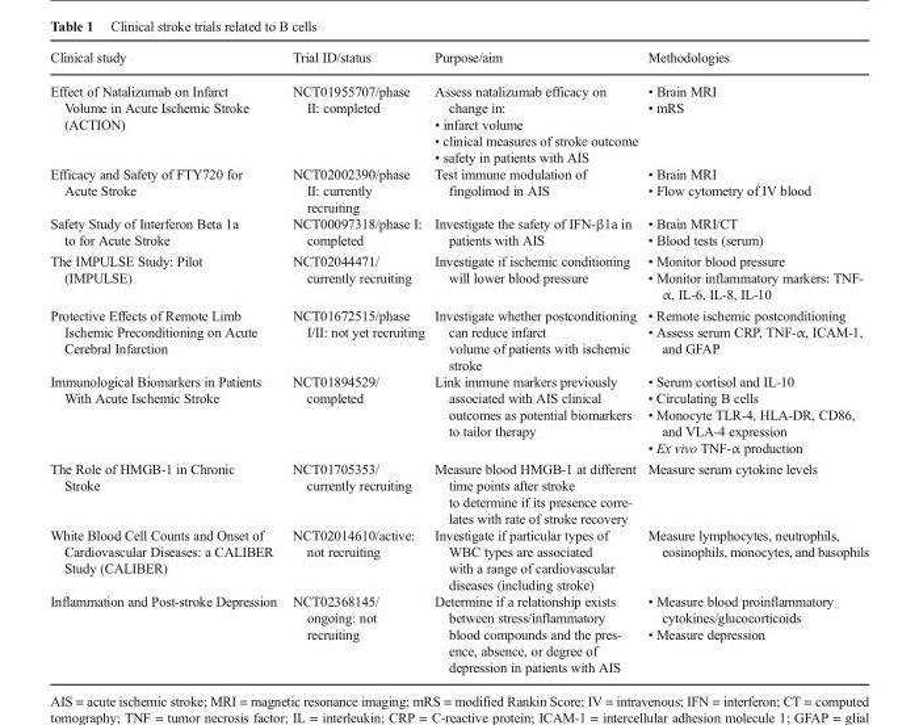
<table><thead><tr><td>Clinical study</td><td>Trial ID/status</td><td>Purpose/aim</td><td>Methodologies</td></tr></thead><tbody><tr><td>Effect of Natalizumab on Infarct Volume in Acute Ischemic Stroke (ACTION)</td><td>NCT01955707/phase II: completed</td><td>Assess natalizumab efficacy on change in: • infarct volume • clinical measures of stroke outcome • safety in patients with AIS</td><td>• Brain MRI • mRS</td></tr><tr><td>Efficacy and Safety of FTY720 for Acute Stroke</td><td>NCT02002390/phase II: currently recruiting</td><td>Test immune modulation of fingolimod in AIS</td><td>• Brain MRI • Flow cytometry of IV blood</td></tr><tr><td>Safety Study of Interferon Beta 1a to for Acute Stroke</td><td>NCT00097318/phase I: completed</td><td>Investigate the safety of IFN-β1a in patients with AIS</td><td>• Brain MRI/CT • Blood tests (serum)</td></tr><tr><td>The IMPULSE Study: Pilot (IMPULSE)</td><td>NCT02044471/ currently recruiting</td><td>Investigate if ischemic conditioning will lower blood pressure</td><td>• Monitor blood pressure • Monitor inflammatory markers: TNF- α, IL-6, IL-8, IL-10</td></tr><tr><td>Protective Effects of Remote Limb Ischemic Preconditioning on Acute Cerebral Infarction</td><td>NCT01672515/phase I/II: not yet recruiting</td><td>Investigate whether postconditioning can reduce infarct volume of patients with ischemic stroke</td><td>• Remote ischemic postconditioning • Assess serum CRP, TNF-α, ICAM-1, and GFAP</td></tr><tr><td>Immunological Biomarkers in Patients With Acute Ischemic Stroke</td><td>NCT01894529/ completed</td><td>Link immune markers previously associated with AIS clinical outcomes as potential biomarkers to tailor therapy</td><td>• Serum cortisol and IL-10 • Circulating B cells • Monocyte TLR-4, HLA-DR, CD86, and VLA-4 expression • Ex vivo TNF-α production</td></tr><tr><td>The Role of HMGB-1 in Chronic Stroke</td><td>NCT01705353/ currently recruiting</td><td>Measure blood HMGB-1 at different time points after stroke to determine if its presence corre- lates with rate of stroke recovery</td><td>Measure serum cytokine levels</td></tr><tr><td>White Blood Cell Counts and Onset of Cardiovascular Diseases: a CALIBER Study (CALIBER)</td><td>NCT02014610/active: not recruiting</td><td>Investigate if particular types of WBC types are associated with a range of cardiovascular diseases (including stroke)</td><td>Measure lymphocytes, neutrophils, eosinophils, monocytes, and basophils</td></tr><tr><td>Inflammation and Post-stroke Depression</td><td>NCT02368145/ ongoing: not recruiting</td><td>Determine if a relationship exists between stress/inflammatory blood compounds and the pres- ence, absence, or degree of depression in patients with AIS</td><td>• Measure blood proinflammatory cytokines/glucocorticoids • Measure depression</td></tr></tbody></table>